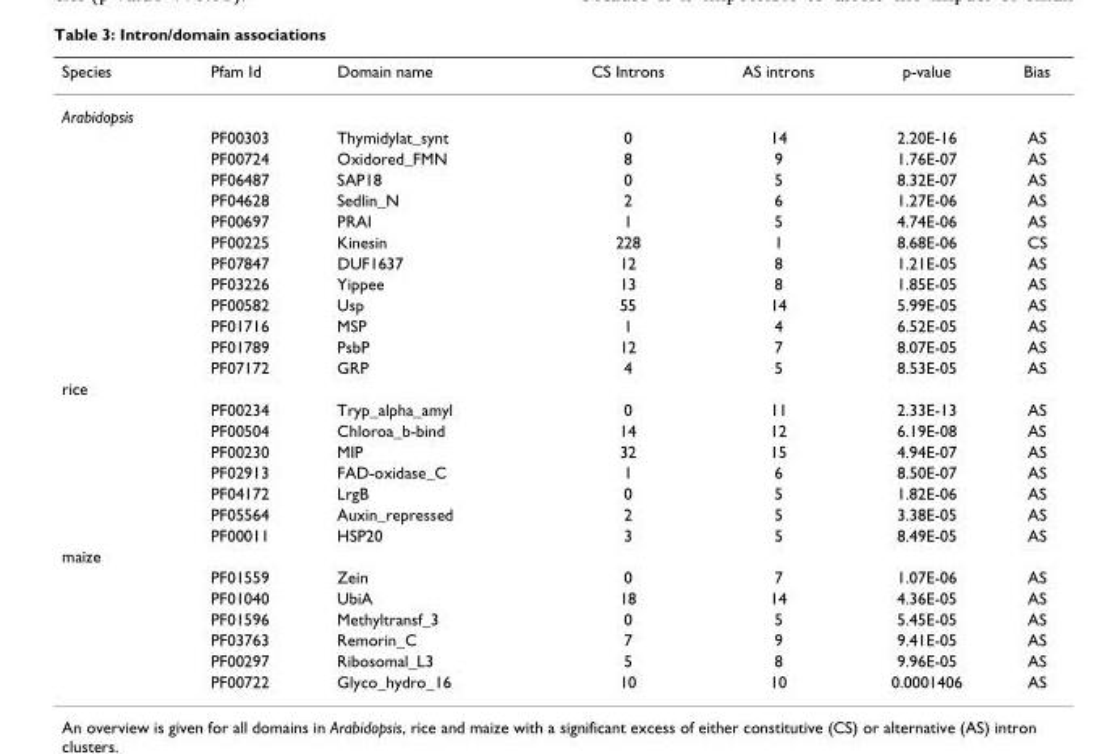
<table><thead><tr><td>Species</td><td>Pfam Id</td><td>Domain name</td><td>CS Introns</td><td>AS introns</td><td>p-value</td><td>Bias</td></tr></thead><tbody><tr><td colspan="7">Arabidopsis</td></tr><tr><td></td><td>PF00303</td><td>Thymidylat_synt</td><td>0</td><td>14</td><td>2.20E-16</td><td>AS</td></tr><tr><td></td><td>PF00724</td><td>Oxidored_FMN</td><td>8</td><td>9</td><td>1.76E-07</td><td>AS</td></tr><tr><td></td><td>PF06487</td><td>SAP18</td><td>0</td><td>5</td><td>8.32E-07</td><td>AS</td></tr><tr><td></td><td>PF04628</td><td>Sedlin_N</td><td>2</td><td>6</td><td>1.27E-06</td><td>AS</td></tr><tr><td></td><td>PF00697</td><td>PRAI</td><td>1</td><td>5</td><td>4.74E-06</td><td>AS</td></tr><tr><td></td><td>PF00225</td><td>Kinesin</td><td>228</td><td>1</td><td>8.68E-06</td><td>CS</td></tr><tr><td></td><td>PF07847</td><td>DUF1637</td><td>12</td><td>8</td><td>1.21E-05</td><td>AS</td></tr><tr><td></td><td>PF03226</td><td>Yippee</td><td>13</td><td>8</td><td>1.85E-05</td><td>AS</td></tr><tr><td></td><td>PF00582</td><td>Usp</td><td>55</td><td>14</td><td>5.99E-05</td><td>AS</td></tr><tr><td></td><td>PF01716</td><td>MSP</td><td>1</td><td>4</td><td>6.52E-05</td><td>AS</td></tr><tr><td></td><td>PF01789</td><td>PsbP</td><td>12</td><td>7</td><td>8.07E-05</td><td>AS</td></tr><tr><td></td><td>PF07172</td><td>GRP</td><td>4</td><td>5</td><td>8.53E-05</td><td>AS</td></tr><tr><td colspan="7">rice</td></tr><tr><td></td><td>PF00234</td><td>Tryp_alpha_amyl</td><td>0</td><td>11</td><td>2.33E-13</td><td>AS</td></tr><tr><td></td><td>PF00504</td><td>Chloroa_b-bind</td><td>14</td><td>12</td><td>6.19E-08</td><td>AS</td></tr><tr><td></td><td>PF00230</td><td>MIP</td><td>32</td><td>15</td><td>4.94E-07</td><td>AS</td></tr><tr><td></td><td>PF02913</td><td>FAD-oxidase_C</td><td>1</td><td>6</td><td>8.50E-07</td><td>AS</td></tr><tr><td></td><td>PF04172</td><td>LrgB</td><td>0</td><td>5</td><td>1.82E-06</td><td>AS</td></tr><tr><td></td><td>PF05564</td><td>Auxin_repressed</td><td>2</td><td>5</td><td>3.38E-05</td><td>AS</td></tr><tr><td></td><td>PF00011</td><td>HSP20</td><td>3</td><td>5</td><td>8.49E-05</td><td>AS</td></tr><tr><td colspan="7">maize</td></tr><tr><td></td><td>PF01559</td><td>Zein</td><td>0</td><td>7</td><td>1.07E-06</td><td>AS</td></tr><tr><td></td><td>PF01040</td><td>UbiA</td><td>18</td><td>14</td><td>4.36E-05</td><td>AS</td></tr><tr><td></td><td>PF01596</td><td>Methyltransf_3</td><td>0</td><td>5</td><td>5.45E-05</td><td>AS</td></tr><tr><td></td><td>PF03763</td><td>Remorin_C</td><td>7</td><td>9</td><td>9.41E-05</td><td>AS</td></tr><tr><td></td><td>PF00297</td><td>Ribosomal_L3</td><td>5</td><td>8</td><td>9.96E-05</td><td>AS</td></tr><tr><td></td><td>PF00722</td><td>Glyco_hydro_16</td><td>10</td><td>10</td><td>0.0001406</td><td>AS</td></tr></tbody></table>